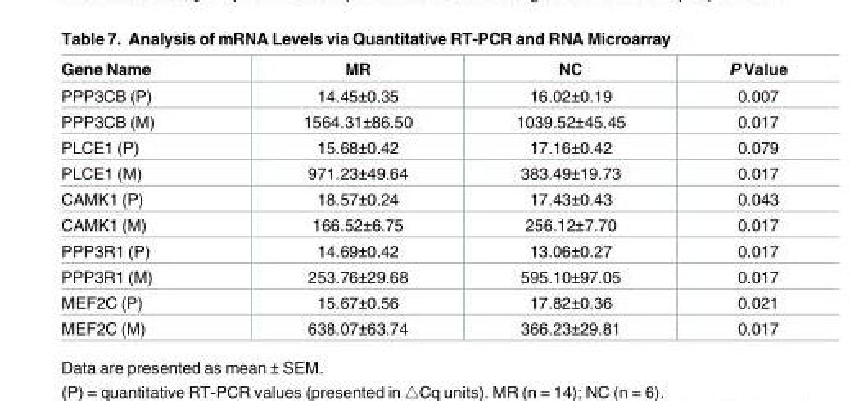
<table><thead><tr><td>Gene Name</td><td>MR</td><td>NC</td><td>P Value</td></tr></thead><tbody><tr><td>PPP3CB (P)</td><td>14.45±0.35</td><td>16.02±0.19</td><td>0.007</td></tr><tr><td>PPP3CB (M)</td><td>1564.31±86.50</td><td>1039.52±45.45</td><td>0.017</td></tr><tr><td>PLCE1 (P)</td><td>15.68±0.42</td><td>17.16±0.42</td><td>0.079</td></tr><tr><td>PLCE1 (M)</td><td>971.23±49.64</td><td>383.49±19.73</td><td>0.017</td></tr><tr><td>CAMK1 (P)</td><td>18.57±0.24</td><td>17.43±0.43</td><td>0.043</td></tr><tr><td>CAMK1 (M)</td><td>166.52±6.75</td><td>256.12±7.70</td><td>0.017</td></tr><tr><td>PPP3R1 (P)</td><td>14.69±0.42</td><td>13.06±0.27</td><td>0.017</td></tr><tr><td>PPP3R1 (M)</td><td>253.76±29.68</td><td>595.10±97.05</td><td>0.017</td></tr><tr><td>MEF2C (P)</td><td>15.67±0.56</td><td>17.82±0.36</td><td>0.021</td></tr><tr><td>MEF2C (M)</td><td>638.07±63.74</td><td>366.23±29.81</td><td>0.017</td></tr></tbody></table>